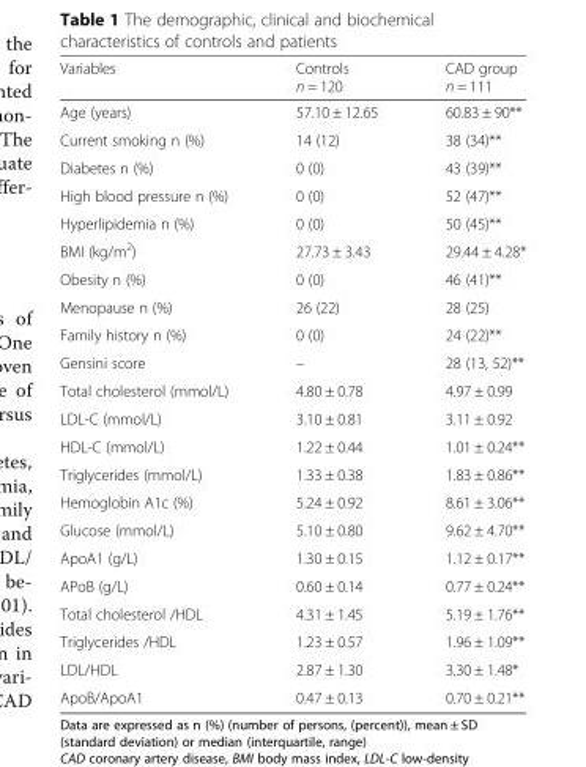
<table><thead><tr><td>Variables</td><td>Controls n = 120</td><td>CAD group n = 111</td></tr></thead><tbody><tr><td>Age (years)</td><td>57.10 ± 12.65</td><td>60.83 ± 90**</td></tr><tr><td>Current smoking n (%)</td><td>14 (12)</td><td>38 (34)**</td></tr><tr><td>Diabetes n (%)</td><td>0 (0)</td><td>43 (39)**</td></tr><tr><td>High blood pressure n (%)</td><td>0 (0)</td><td>52 (47)**</td></tr><tr><td>Hyperlipidemia n (%)</td><td>0 (0)</td><td>50 (45)**</td></tr><tr><td>BMI (kg/m<sup>2</sup>)</td><td>27.73 ± 3.43</td><td>29.44 ± 4.28*</td></tr><tr><td>Obesity n (%)</td><td>0 (0)</td><td>46 (41)**</td></tr><tr><td>Menopause n (%)</td><td>26 (22)</td><td>28 (25)</td></tr><tr><td>Family history n (%)</td><td>0 (0)</td><td>24 (22)**</td></tr><tr><td>Gensini score</td><td>–</td><td>28 (13, 52)**</td></tr><tr><td>Total cholesterol (mmol/L)</td><td>4.80 ± 0.78</td><td>4.97 ± 0.99</td></tr><tr><td>LDL-C (mmol/L)</td><td>3.10 ± 0.81</td><td>3.11 ± 0.92</td></tr><tr><td>HDL-C (mmol/L)</td><td>1.22 ± 0.44</td><td>1.01 ± 0.24**</td></tr><tr><td>Triglycerides (mmol/L)</td><td>1.33 ± 0.38</td><td>1.83 ± 0.86**</td></tr><tr><td>Hemoglobin A1c (%)</td><td>5.24 ± 0.92</td><td>8.61 ± 3.06**</td></tr><tr><td>Glucose (mmol/L)</td><td>5.10 ± 0.80</td><td>9.62 ± 4.70**</td></tr><tr><td>ApoA1 (g/L)</td><td>1.30 ± 0.15</td><td>1.12 ± 0.17**</td></tr><tr><td>APoB (g/L)</td><td>0.60 ± 0.14</td><td>0.77 ± 0.24**</td></tr><tr><td>Total cholesterol /HDL</td><td>4.31 ± 1.45</td><td>5.19 ± 1.76**</td></tr><tr><td>Triglycerides /HDL</td><td>1.23 ± 0.57</td><td>1.96 ± 1.09**</td></tr><tr><td>LDL/HDL</td><td>2.87 ± 1.30</td><td>3.30 ± 1.48*</td></tr><tr><td>ApoB/ApoA1</td><td>0.47 ± 0.13</td><td>0.70 ± 0.21**</td></tr></tbody></table>